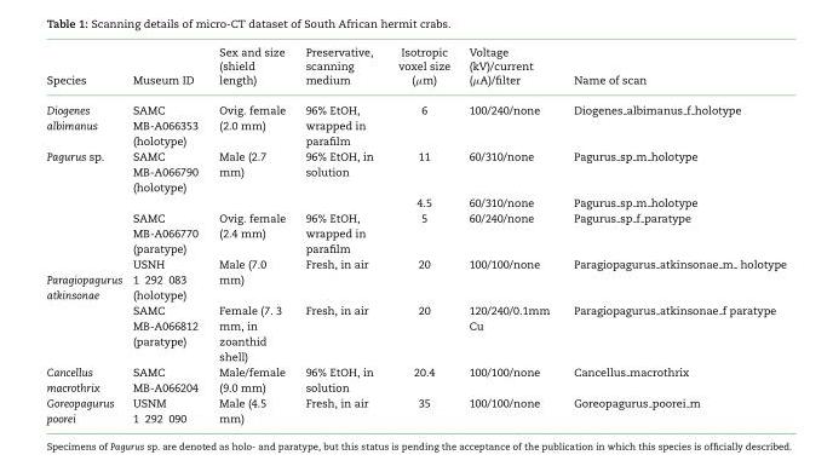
<table><thead><tr><td>Species</td><td>Museum ID</td><td>Sex and size (shield length)</td><td>Preservative, scanning medium</td><td>Isotropic voxel size (μm)</td><td>Voltage (kV)/current (μA)/filter</td><td>Name of scan</td></tr></thead><tbody><tr><td>Diogenes albimanus</td><td>SAMC MB-A066353 (holotype)</td><td>Ovig. female (2.0 mm)</td><td>96% EtOH, wrapped in parafilm</td><td>6</td><td>100/240/none</td><td>Diogenes albimanus f holotype</td></tr><tr><td rowspan="3">Pagurus sp.</td><td>SAMC MB-A066790 (holotype)</td><td>Male (2.7 mm)</td><td>96% EtOH, in solution</td><td>11</td><td>60/310/none</td><td>Pagurus sp m holotype</td></tr><tr><td></td><td></td><td></td><td>4.5</td><td>60/310/none</td><td>Pagurus sp m holotype</td></tr><tr><td>SAMC MB-A066770 (paratype)</td><td>Ovig. female (2.4 mm)</td><td>96% EtOH, wrapped in parafilm</td><td>5</td><td>60/240/none</td><td>Pagurus sp f paratype</td></tr><tr><td rowspan="2">Paragiopagurus atkinsonae</td><td>USNH 1 292 083 (holotype)</td><td>Male (7.0 mm)</td><td>Fresh, in air</td><td>20</td><td>100/100/none</td><td>Paragiopagurus atkinsonae m holotype</td></tr><tr><td>SAMC MB-A066812 (paratype)</td><td>Female (7. 3 mm, in zoanthid shell)</td><td>Fresh, in air</td><td>20</td><td>120/240/0.1mm Cu</td><td>Paragiopagurus <sub>atkinsonae</sub> f paratype</td></tr><tr><td>Cancellus macrothrix</td><td>SAMC MB-A066204</td><td>Male/female (9.0 mm)</td><td>96% EtOH, in solution</td><td>20.4</td><td>100/100/none</td><td>Cancellus macrothrix</td></tr><tr><td>Goreopagurus poorei</td><td>USNM 1 292 090</td><td>Male (4.5 mm)</td><td>Fresh, in air</td><td>35</td><td>100/100/none</td><td>Goreopagurus <sub>poorei</sub> m</td></tr></tbody></table>